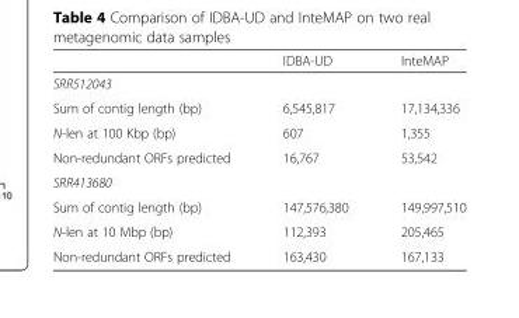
<table><thead><tr><td></td><td>IDBA-UD</td><td>InteMAP</td></tr></thead><tbody><tr><td colspan="3">SRR512043</td></tr><tr><td>Sum of contig length (bp)</td><td>6,545,817</td><td>17,134,336</td></tr><tr><td>N-len at 100 Kbp (bp)</td><td>607</td><td>1,355</td></tr><tr><td>Non-redundant ORFs predicted</td><td>16,767</td><td>53,542</td></tr><tr><td colspan="3">SRR413680</td></tr><tr><td>Sum of contig length (bp)</td><td>147,576,380</td><td>149,997,510</td></tr><tr><td>N-len at 10 Mbp (bp)</td><td>112,393</td><td>205,465</td></tr><tr><td>Non-redundant ORFs predicted</td><td>163,430</td><td>167,133</td></tr></tbody></table>